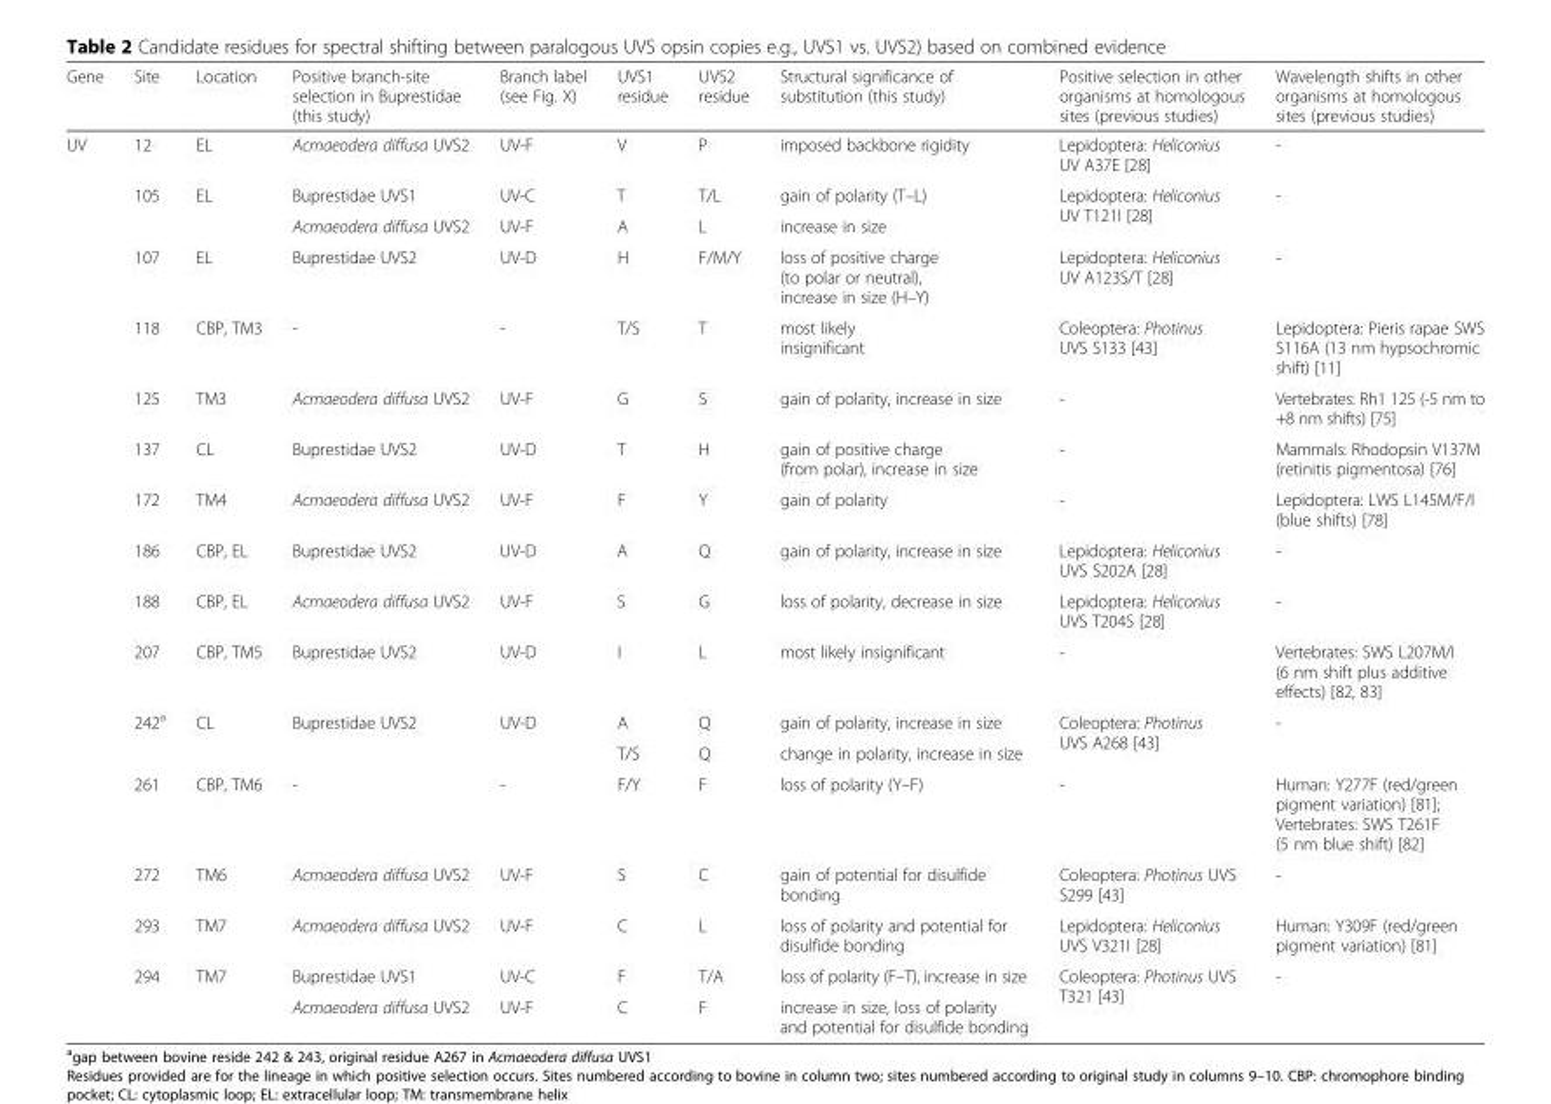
<table><thead><tr><td>Gene</td><td>Site</td><td>Location</td><td>Positive branch-site selection in Buprestidae (this study)</td><td>Branch label (see Fig. X)</td><td>UVS1 residue</td><td>UVS2 residue</td><td>Structural significance of substitution (this study)</td><td>Positive selection in other organisms at homologous sites (previous studies)</td><td>Wavelength shifts in other organisms at homologous sites (previous studies)</td></tr></thead><tbody><tr><td rowspan="18">UV</td><td>12</td><td>EL</td><td>Acmaeodera diffusa UVS2</td><td>UV-F</td><td>V</td><td>P</td><td>imposed backbone rigidity</td><td>Lepidoptera: Heliconius UV A37E [28]</td><td>-</td></tr><tr><td rowspan="2">105</td><td rowspan="2">EL</td><td>Buprestidae UVS1</td><td>UV-C</td><td>T</td><td>T/L</td><td>gain of polarity (T–L)</td><td rowspan="2">Lepidoptera: Heliconius UV T121I [28]</td><td rowspan="2">-</td></tr><tr><td>Acmaeodera diffusa UVS2</td><td>UV-F</td><td>A</td><td>L</td><td>increase in size</td></tr><tr><td>107</td><td>EL</td><td>Buprestidae UVS2</td><td>UV-D</td><td>H</td><td>F/M/Y</td><td>loss of positive charge (to polar or neutral), increase in size (H–Y)</td><td>Lepidoptera: Heliconius UV A123S/T [28]</td><td>-</td></tr><tr><td>118</td><td>CBP, TM3</td><td>-</td><td>-</td><td>T/S</td><td>T</td><td>most likely insignificant</td><td>Coleoptera: Photinus UVS S133 [43]</td><td>Lepidoptera: Pieris rapae SWS S116A (13 nm hypsochromic shift) [11]</td></tr><tr><td>125</td><td>TM3</td><td>Acmaeodera diffusa UVS2</td><td>UV-F</td><td>G</td><td>S</td><td>gain of polarity, increase in size</td><td>-</td><td>Vertebrates: Rh1 125 (-5 nm to +8 nm shifts) [75]</td></tr><tr><td>137</td><td>CL</td><td>Buprestidae UVS2</td><td>UV-D</td><td>T</td><td>H</td><td>gain of positive charge (from polar), increase in size</td><td>-</td><td>Mammals: Rhodopsin V137M (retinitis pigmentosa) [76]</td></tr><tr><td>172</td><td>TM4</td><td>Acmaeodera diffusa UVS2</td><td>UV-F</td><td>F</td><td>Y</td><td>gain of polarity</td><td>-</td><td>Lepidoptera: LWS L145M/F/I (blue shifts) [78]</td></tr><tr><td>186</td><td>CBP, EL</td><td>Buprestidae UVS2</td><td>UV-D</td><td>A</td><td>Q</td><td>gain of polarity, increase in size</td><td>Lepidoptera: Heliconius UVS S202A [28]</td><td>-</td></tr><tr><td>188</td><td>CBP, EL</td><td>Acmaeodera diffusa UVS2</td><td>UV-F</td><td>S</td><td>G</td><td>loss of polarity, decrease in size</td><td>Lepidoptera: Heliconius UVS T204S [28]</td><td>-</td></tr><tr><td>207</td><td>CBP, TM5</td><td>Buprestidae UVS2</td><td>UV-D</td><td>I</td><td>L</td><td>most likely insignificant</td><td>-</td><td>Vertebrates: SWS L207M/I (6 nm shift plus additive effects) [82, 83]</td></tr><tr><td rowspan="2">242<sup>a</sup></td><td rowspan="2">CL</td><td rowspan="2">Buprestidae UVS2</td><td rowspan="2">UV-D</td><td>A</td><td>Q</td><td>gain of polarity, increase in size</td><td rowspan="2">Coleoptera: Photinus UVS A268 [43]</td><td rowspan="2">-</td></tr><tr><td>T/S</td><td>Q</td><td>change in polarity, increase in size</td></tr><tr><td>261</td><td>CBP, TM6</td><td>-</td><td>-</td><td>F/Y</td><td>F</td><td>loss of polarity (Y–F)</td><td>-</td><td>Human: Y277F (red/green pigment variation) [81]; Vertebrates: SWS T261F (5 nm blue shift) [82]</td></tr><tr><td>272</td><td>TM6</td><td>Acmaeodera diffusa UVS2</td><td>UV-F</td><td>S</td><td>C</td><td>gain of potential for disulfide bonding</td><td>Coleoptera: Photinus UVS S299 [43]</td><td>-</td></tr><tr><td>293</td><td>TM7</td><td>Acmaeodera diffusa UVS2</td><td>UV-F</td><td>C</td><td>L</td><td>loss of polarity and potential for disulfide bonding</td><td>Lepidoptera: Heliconius UVS V321I [28]</td><td>Human: Y309F (red/green pigment variation) [81]</td></tr><tr><td rowspan="2">294</td><td rowspan="2">TM7</td><td>Buprestidae UVS1</td><td>UV-C</td><td>F</td><td>T/A</td><td>loss of polarity (F–T), increase in size</td><td rowspan="2">Coleoptera: Photinus UVS T321 [43]</td><td rowspan="2">-</td></tr><tr><td>Acmaeodera diffusa UVS2</td><td>UV-F</td><td>C</td><td>F</td><td>increase in size, loss of polarity and potential for disulfide bonding</td></tr></tbody></table>